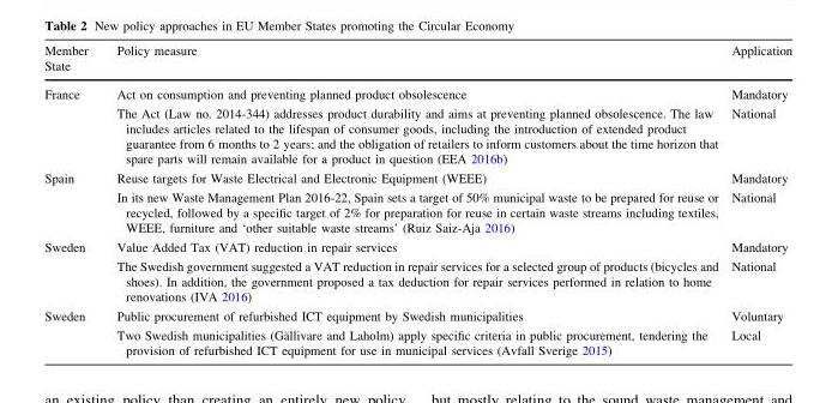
<table><thead><tr><td>Member State</td><td>Policy measure</td><td>Application</td></tr></thead><tbody><tr><td>France</td><td>Act on consumption and preventing planned product obsolescence The Act (Law no. 2014-344) addresses product durability and aims at preventing planned obsolescence. The law includes articles related to the lifespan of consumer goods, including the introduction of extended product guarantee from 6 months to 2 years; and the obligation of retailers to inform customers about the time horizon that spare parts will remain available for a product in question (EEA 2016b)</td><td>Mandatory National</td></tr><tr><td>Spain</td><td>Reuse targets for Waste Electrical and Electronic Equipment (WEEE) In its new Waste Management Plan 2016-22, Spain sets a target of 50% municipal waste to be prepared for reuse or recycled, followed by a specific target of 2% for preparation for reuse in certain waste streams including textiles, WEEE, furniture and ‘other suitable waste streams’ (Ruiz Saiz-Aja 2016)</td><td>Mandatory National</td></tr><tr><td>Sweden</td><td>Value Added Tax (VAT) reduction in repair services The Swedish government suggested a VAT reduction in repair services for a selected group of products (bicycles and shoes). In addition, the government proposed a tax deduction for repair services performed in relation to home renovations (IVA 2016)</td><td>Mandatory National</td></tr><tr><td>Sweden</td><td>Public procurement of refurbished ICT equipment by Swedish municipalities Two Swedish municipalities (Ga¨llivare and Laholm) apply specific criteria in public procurement, tendering the provision of refurbished ICT equipment for use in municipal services (Avfall Sverige 2015)</td><td>Voluntary Local</td></tr></tbody></table>